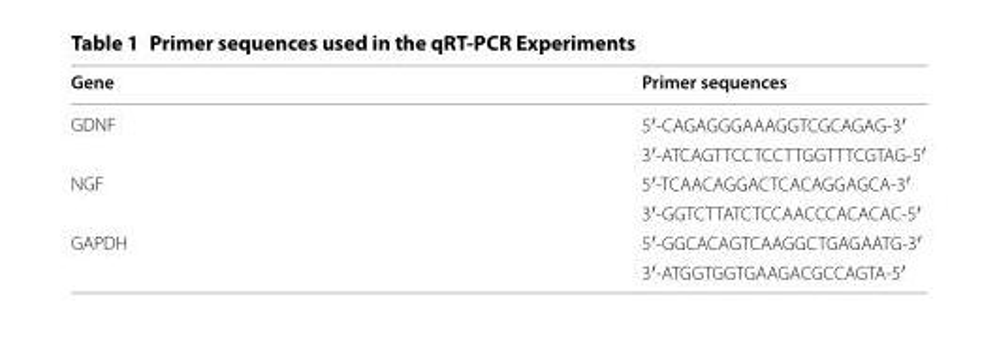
<table><thead><tr><td>Gene</td><td>Primer sequences</td></tr></thead><tbody><tr><td rowspan="2">GDNF</td><td>5′-CAG AGG GAA AGG TCG CAG AG-3′</td></tr><tr><td>3′-ATC AGT TCC TCC TTG GTT TCG TAG -5′</td></tr><tr><td rowspan="2">NGF</td><td>5′-TCA ACA GGA CTC ACA GGA GCA-3′</td></tr><tr><td>3′-GGT CTT ATC TCC AAC CCA CACAC-5′</td></tr><tr><td rowspan="2">GAPDH</td><td>5′-GGC ACA GTC AAG GCT GAG AATG-3′</td></tr><tr><td>3′-ATG GTG GTG AAG ACG CCA GTA-5′</td></tr></tbody></table>